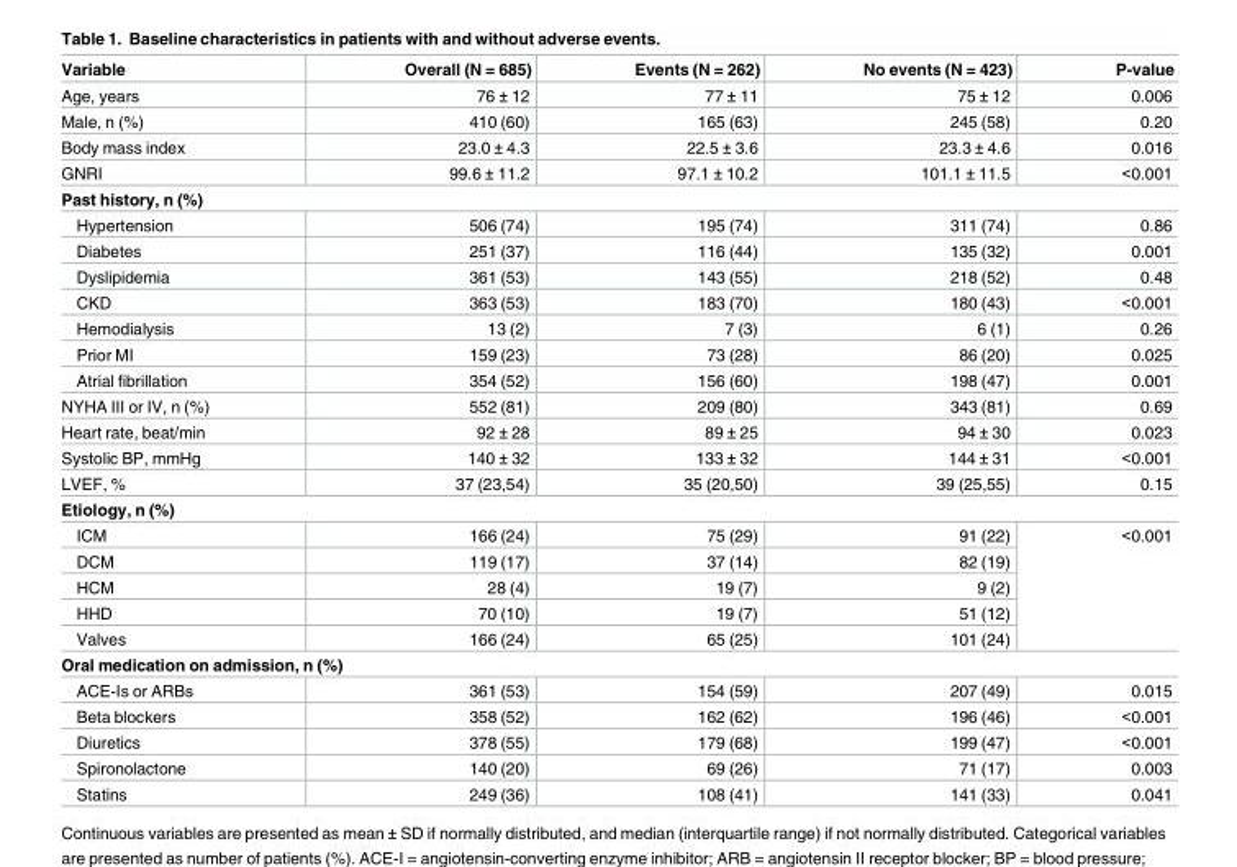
<table><thead><tr><td>Variable</td><td>Overall (N = 685)</td><td>Events (N = 262)</td><td>No events (N = 423)</td><td>P-value</td></tr></thead><tbody><tr><td>Age, years</td><td>76 ± 12</td><td>77 ± 11</td><td>75 ± 12</td><td>0.006</td></tr><tr><td>Male, n (%)</td><td>410 (60)</td><td>165 (63)</td><td>245 (58)</td><td>0.20</td></tr><tr><td>Body mass index</td><td>23.0 ± 4.3</td><td>22.5 ± 3.6</td><td>23.3 ± 4.6</td><td>0.016</td></tr><tr><td>GNRI</td><td>99.6 ± 11.2</td><td>97.1 ± 10.2</td><td>101.1 ± 11.5</td><td>&lt;0.001</td></tr><tr><td colspan="5">Past history, n (%)</td></tr><tr><td>Hypertension</td><td>506 (74)</td><td>195 (74)</td><td>311 (74)</td><td>0.86</td></tr><tr><td>Diabetes</td><td>251 (37)</td><td>116 (44)</td><td>135 (32)</td><td>0.001</td></tr><tr><td>Dyslipidemia</td><td>361 (53)</td><td>143 (55)</td><td>218 (52)</td><td>0.48</td></tr><tr><td>CKD</td><td>363 (53)</td><td>183 (70)</td><td>180 (43)</td><td>&lt;0.001</td></tr><tr><td>Hemodialysis</td><td>13 (2)</td><td>7 (3)</td><td>6 (1)</td><td>0.26</td></tr><tr><td>Prior MI</td><td>159 (23)</td><td>73 (28)</td><td>86 (20)</td><td>0.025</td></tr><tr><td>Atrial fibrillation</td><td>354 (52)</td><td>156 (60)</td><td>198 (47)</td><td>0.001</td></tr><tr><td>NYHA III or IV, n (%)</td><td>552 (81)</td><td>209 (80)</td><td>343 (81)</td><td>0.69</td></tr><tr><td>Heart rate, beat/min</td><td>92 ± 28</td><td>89 ± 25</td><td>94 ± 30</td><td>0.023</td></tr><tr><td>Systolic BP, mmHg</td><td>140 ± 32</td><td>133 ± 32</td><td>144 ± 31</td><td>&lt;0.001</td></tr><tr><td>LVEF, %</td><td>37 (23,54)</td><td>35 (20,50)</td><td>39 (25,55)</td><td>0.15</td></tr><tr><td colspan="5">Etiology, n (%)</td></tr><tr><td>ICM</td><td>166 (24)</td><td>75 (29)</td><td>91 (22)</td><td rowspan="5">&lt;0.001</td></tr><tr><td>DCM</td><td>119 (17)</td><td>37 (14)</td><td>82 (19)</td></tr><tr><td>HCM</td><td>28 (4)</td><td>19 (7)</td><td>9 (2)</td></tr><tr><td>HHD</td><td>70 (10)</td><td>19 (7)</td><td>51 (12)</td></tr><tr><td>Valves</td><td>166 (24)</td><td>65 (25)</td><td>101 (24)</td></tr><tr><td colspan="5">Oral medication on admission, n (%)</td></tr><tr><td>ACE-Is or ARBs</td><td>361 (53)</td><td>154 (59)</td><td>207 (49)</td><td>0.015</td></tr><tr><td>Beta blockers</td><td>358 (52)</td><td>162 (62)</td><td>196 (46)</td><td>&lt;0.001</td></tr><tr><td>Diuretics</td><td>378 (55)</td><td>179 (68)</td><td>199 (47)</td><td>&lt;0.001</td></tr><tr><td>Spironolactone</td><td>140 (20)</td><td>69 (26)</td><td>71 (17)</td><td>0.003</td></tr><tr><td>Statins</td><td>249 (36)</td><td>108 (41)</td><td>141 (33)</td><td>0.041</td></tr></tbody></table>